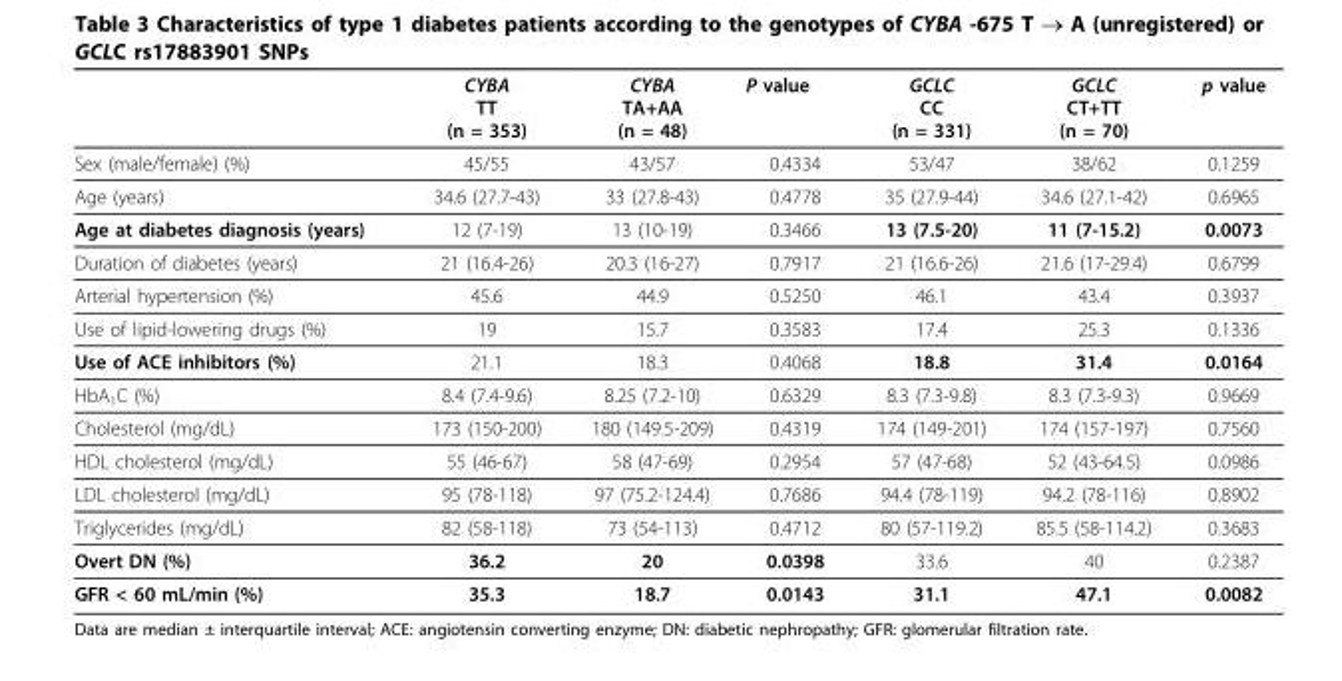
<table><thead><tr><td></td><td>CYBA TT (n = 353)</td><td>CYBA TA+AA (n = 48)</td><td>P value</td><td>GCLC CC (n = 331)</td><td>GCLC CT+TT (n = 70)</td><td>p value</td></tr></thead><tbody><tr><td>Sex (male/female) (%)</td><td>45/55</td><td>43/57</td><td>0.4334</td><td>53/47</td><td>38/62</td><td>0.1259</td></tr><tr><td>Age (years)</td><td>34.6 (27.7-43)</td><td>33 (27.8-43)</td><td>0.4778</td><td>35 (27.9-44)</td><td>34.6 (27.1-42)</td><td>0.6965</td></tr><tr><td>Age at diabetes diagnosis (years)</td><td>12 (7-19)</td><td>13 (10-19)</td><td>0.3466</td><td>13 (7.5-20)</td><td>11 (7-15.2)</td><td>0.0073</td></tr><tr><td>Duration of diabetes (years)</td><td>21 (16.4-26)</td><td>20.3 (16-27)</td><td>0.7917</td><td>21 (16.6-26)</td><td>21.6 (17-29.4)</td><td>0.6799</td></tr><tr><td>Arterial hypertension (%)</td><td>45.6</td><td>44.9</td><td>0.5250</td><td>46.1</td><td>43.4</td><td>0.3937</td></tr><tr><td>Use of lipid-lowering drugs (%)</td><td>19</td><td>15.7</td><td>0.3583</td><td>17.4</td><td>25.3</td><td>0.1336</td></tr><tr><td>Use of ACE inhibitors (%)</td><td>21.1</td><td>18.3</td><td>0.4068</td><td>18.8</td><td>31.4</td><td>0.0164</td></tr><tr><td>HbA<sub>1</sub>C (%)</td><td>8.4 (7.4-9.6)</td><td>8.25 (7.2-10)</td><td>0.6329</td><td>8.3 (7.3-9.8)</td><td>8.3 (7.3-9.3)</td><td>0.9669</td></tr><tr><td>Cholesterol (mg/dL)</td><td>173 (150-200)</td><td>180 (149.5-209)</td><td>0.4319</td><td>174 (149-201)</td><td>174 (157-197)</td><td>0.7560</td></tr><tr><td>HDL cholesterol (mg/dL)</td><td>55 (46-67)</td><td>58 (47-69)</td><td>0.2954</td><td>57 (47-68)</td><td>52 (43-64.5)</td><td>0.0986</td></tr><tr><td>LDL cholesterol (mg/dL)</td><td>95 (78-118)</td><td>97 (75.2-124.4)</td><td>0.7686</td><td>94.4 (78-119)</td><td>94.2 (78-116)</td><td>0.8902</td></tr><tr><td>Triglycerides (mg/dL)</td><td>82 (58-118)</td><td>73 (54-113)</td><td>0.4712</td><td>80 (57-119.2)</td><td>85.5 (58-114.2)</td><td>0.3683</td></tr><tr><td>Overt DN (%)</td><td>36.2</td><td>20</td><td>0.0398</td><td>33.6</td><td>40</td><td>0.2387</td></tr><tr><td>GFR &lt; 60 mL/min (%)</td><td>35.3</td><td>18.7</td><td>0.0143</td><td>31.1</td><td>47.1</td><td>0.0082</td></tr></tbody></table>